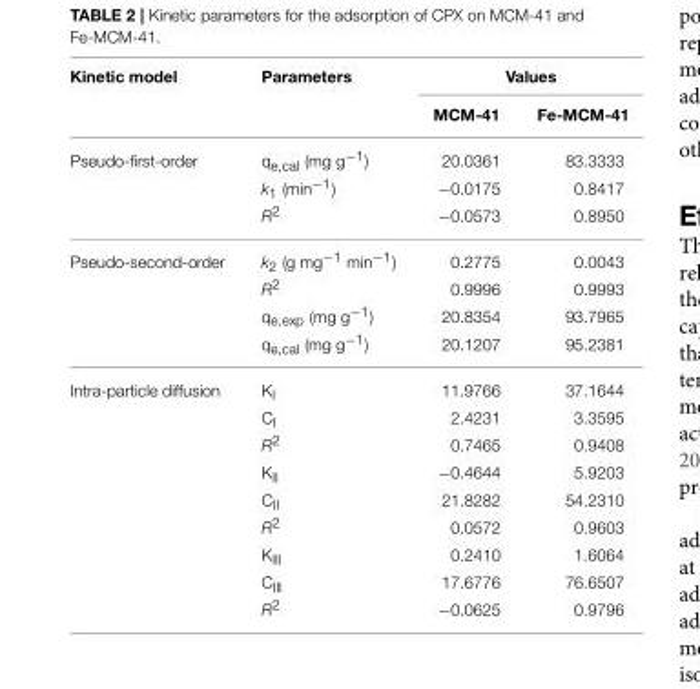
<table><thead><tr><td rowspan="2">Kinetic model</td><td rowspan="2">Parameters</td><td colspan="2">Values</td></tr><tr><td>MCM-41</td><td>Fe-MCM-41</td></tr></thead><tbody><tr><td rowspan="3">Pseudo-first-order</td><td>q<sub>e,cal</sub> (mg g<sup>−1</sup>)</td><td>20.0361</td><td>83.3333</td></tr><tr><td>k<sub>1</sub> (min<sup>−1</sup>)</td><td>−0.0175</td><td>0.8417</td></tr><tr><td>R<sup>2</sup></td><td>−0.0573</td><td>0.8950</td></tr><tr><td rowspan="4">Pseudo-second-order</td><td>k<sub>2</sub> (g mg<sup>−1</sup> min<sup>−1</sup>)</td><td>0.2775</td><td>0.0043</td></tr><tr><td>R<sup>2</sup></td><td>0.9996</td><td>0.9993</td></tr><tr><td>q<sub>e,exp</sub> (mg g<sup>−1</sup>)</td><td>20.8354</td><td>93.7965</td></tr><tr><td>q<sub>e,cal</sub> (mg g<sup>−1</sup>)</td><td>20.1207</td><td>95.2381</td></tr><tr><td rowspan="9">Intra-particle diffusion</td><td>K<sub>I</sub></td><td>11.9766</td><td>37.1644</td></tr><tr><td>C<sub>I</sub></td><td>2.4231</td><td>3.3595</td></tr><tr><td>R<sup>2</sup></td><td>0.7465</td><td>0.9408</td></tr><tr><td>K<sub>II</sub></td><td>−0.4644</td><td>5.9203</td></tr><tr><td>C<sub>II</sub></td><td>21.8282</td><td>54.2310</td></tr><tr><td>R<sup>2</sup></td><td>0.0572</td><td>0.9603</td></tr><tr><td>K<sub>III</sub></td><td>0.2410</td><td>1.6064</td></tr><tr><td>C<sub>III</sub></td><td>17.6776</td><td>76.6507</td></tr><tr><td>R<sup>2</sup></td><td>−0.0625</td><td>0.9796</td></tr></tbody></table>